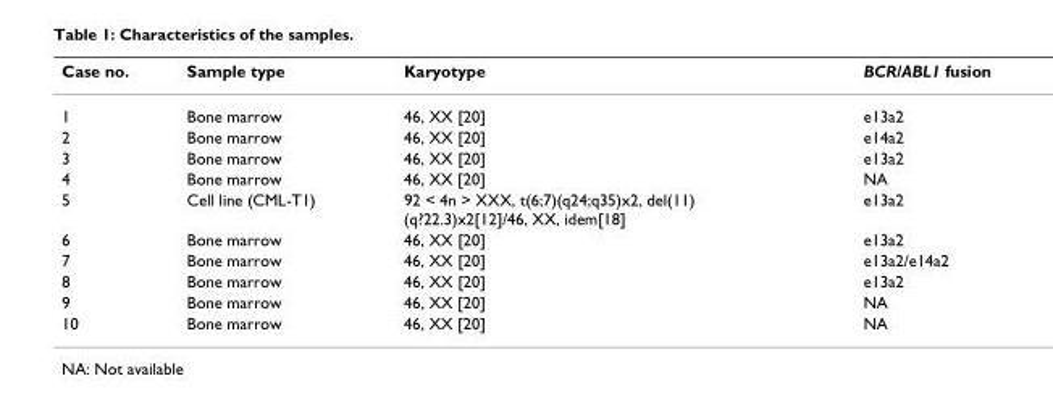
<table><thead><tr><td>Case no.</td><td>Sample type</td><td>Karyotype</td><td>BCR/ABL1 fusion</td></tr></thead><tbody><tr><td>1</td><td>Bone marrow</td><td>46, XX [20]</td><td>e13a2</td></tr><tr><td>2</td><td>Bone marrow</td><td>46, XX [20]</td><td>e14a2</td></tr><tr><td>3</td><td>Bone marrow</td><td>46, XX [20]</td><td>e13a2</td></tr><tr><td>4</td><td>Bone marrow</td><td>46, XX [20]</td><td>NA</td></tr><tr><td>5</td><td>Cell line (CML-T1)</td><td>92 &lt; 4n &gt; XXX, t(6;7)(q24;q35)x2, del(11) (q?22.3)x2[12]/46, XX, idem[18]</td><td>e13a2</td></tr><tr><td>6</td><td>Bone marrow</td><td>46, XX [20]</td><td>e13a2</td></tr><tr><td>7</td><td>Bone marrow</td><td>46, XX [20]</td><td>e13a2/e14a2</td></tr><tr><td>8</td><td>Bone marrow</td><td>46, XX [20]</td><td>e13a2</td></tr><tr><td>9</td><td>Bone marrow</td><td>46, XX [20]</td><td>NA</td></tr><tr><td>10</td><td>Bone marrow</td><td>46, XX [20]</td><td>NA</td></tr></tbody></table>